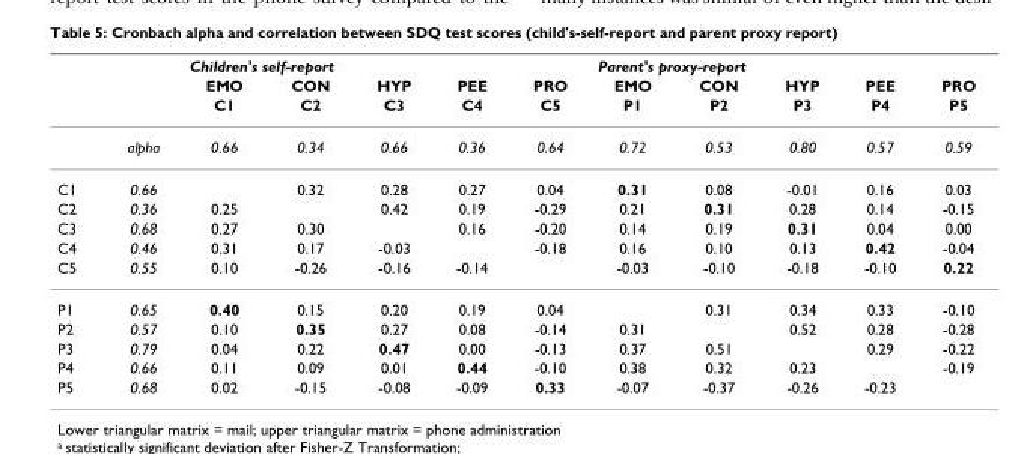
<table><thead><tr><td rowspan="3"></td><td rowspan="3"></td><td colspan="5">Children&#x27;s self-report</td><td colspan="5">Parent&#x27;s proxy-report</td></tr><tr><td rowspan="2">EMO C1</td><td rowspan="2">CON C2</td><td rowspan="2">HYP C3</td><td rowspan="2">PEE C4</td><td rowspan="2">PRO C5</td><td rowspan="2">EMO P1</td><td rowspan="2">CON P2</td><td rowspan="2">HYP P3</td><td rowspan="2">PEE P4</td><td rowspan="2">PRO P5</td></tr><tr></tr></thead><tbody><tr><td></td><td>alpha</td><td>0.66</td><td>0.34</td><td>0.66</td><td>0.36</td><td>0.64</td><td>0.72</td><td>0.53</td><td>0.80</td><td>0.57</td><td>0.59</td></tr><tr><td>C1</td><td>0.66</td><td></td><td>0.32</td><td>0.28</td><td>0.27</td><td>0.04</td><td>0.31</td><td>0.08</td><td>-0.01</td><td>0.16</td><td>0.03</td></tr><tr><td>C2</td><td>0.36</td><td>0.25</td><td></td><td>0.42</td><td>0.19</td><td>-0.29</td><td>0.21</td><td>0.31</td><td>0.28</td><td>0.14</td><td>-0.15</td></tr><tr><td>C3</td><td>0.68</td><td>0.27</td><td>0.30</td><td></td><td>0.16</td><td>-0.20</td><td>0.14</td><td>0.19</td><td>0.31</td><td>0.04</td><td>0.00</td></tr><tr><td>C4</td><td>0.46</td><td>0.31</td><td>0.17</td><td>-0.03</td><td></td><td>-0.18</td><td>0.16</td><td>0.10</td><td>0.13</td><td>0.42</td><td>-0.04</td></tr><tr><td>C5</td><td>0.55</td><td>0.10</td><td>-0.26</td><td>-0.16</td><td>-0.14</td><td></td><td>-0.03</td><td>-0.10</td><td>-0.18</td><td>-0.10</td><td>0.22</td></tr><tr><td>P1</td><td>0.65</td><td>0.40</td><td>0.15</td><td>0.20</td><td>0.19</td><td>0.04</td><td></td><td>0.31</td><td>0.34</td><td>0.33</td><td>-0.10</td></tr><tr><td>P2</td><td>0.57</td><td>0.10</td><td>0.35</td><td>0.27</td><td>0.08</td><td>-0.14</td><td>0.31</td><td></td><td>0.52</td><td>0.28</td><td>-0.28</td></tr><tr><td>P3</td><td>0.79</td><td>0.04</td><td>0.22</td><td>0.47</td><td>0.00</td><td>-0.13</td><td>0.37</td><td>0.51</td><td></td><td>0.29</td><td>-0.22</td></tr><tr><td>P4</td><td>0.66</td><td>0.11</td><td>0.09</td><td>0.01</td><td>0.44</td><td>-0.10</td><td>0.38</td><td>0.32</td><td>0.23</td><td></td><td>-0.19</td></tr><tr><td>P5</td><td>0.68</td><td>0.02</td><td>-0.15</td><td>-0.08</td><td>-0.09</td><td>0.33</td><td>-0.07</td><td>-0.37</td><td>-0.26</td><td>-0.23</td><td></td></tr></tbody></table>